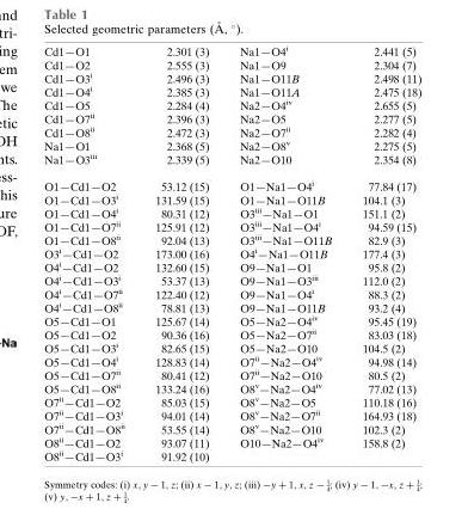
<table><tbody><tr><td>Cd1—O1</td><td>2.301 (3)</td><td>Na1—O4<sup>i</sup></td><td>2.441 (5)</td></tr><tr><td>Cd1—O2</td><td>2.555 (3)</td><td>Na1—O9</td><td>2.304 (7)</td></tr><tr><td>Cd1—O3<sup>i</sup></td><td>2.496 (3)</td><td>Na1—O11B</td><td>2.498 (11)</td></tr><tr><td>Cd1—O4<sup>i</sup></td><td>2.385 (3)</td><td>Na1—O11A</td><td>2.475 (18)</td></tr><tr><td>Cd1—O5</td><td>2.284 (4)</td><td>Na2—O4<sup>iv</sup></td><td>2.655 (5)</td></tr><tr><td>Cd1—O7<sup>ii</sup></td><td>2.396 (3)</td><td>Na2—O5</td><td>2.277 (5)</td></tr><tr><td>Cd1—O8<sup>ii</sup></td><td>2.472 (3)</td><td>Na2—O7<sup>ii</sup></td><td>2.282 (4)</td></tr><tr><td>Na1—O1</td><td>2.368 (5)</td><td>Na2—O8<sup>v</sup></td><td>2.275 (5)</td></tr><tr><td>Na1—O3<sup>iii</sup></td><td>2.339 (5)</td><td>Na2—O10</td><td>2.354 (8)</td></tr><tr><td>O1—Cd1—O2</td><td>53.12 (15)</td><td>O1—Na1—O4<sup>i</sup></td><td>77.84 (17)</td></tr><tr><td>O1—Cd1—O3<sup>i</sup></td><td>131.59 (15)</td><td>O1—Na1—O11B</td><td>104.1 (3)</td></tr><tr><td>O1—Cd1—O4<sup>i</sup></td><td>80.31 (12)</td><td>O3<sup>iii</sup>—Na1—O1</td><td>151.1 (2)</td></tr><tr><td>O1—Cd1—O7<sup>ii</sup></td><td>125.91 (12)</td><td>O3<sup>iii</sup>—Na1—O4<sup>i</sup></td><td>94.59 (15)</td></tr><tr><td>O1—Cd1—O8<sup>ii</sup></td><td>92.04 (13)</td><td>O3<sup>iii</sup>—Na1—O11B</td><td>82.9 (3)</td></tr><tr><td>O3<sup>i</sup>—Cd1—O2</td><td>173.00 (16)</td><td>O4<sup>i</sup>—Na1—O11B</td><td>177.4 (3)</td></tr><tr><td>O4<sup>i</sup>—Cd1—O2</td><td>132.60 (15)</td><td>O9—Na1—O1</td><td>95.8 (2)</td></tr><tr><td>O4<sup>i</sup>—Cd1—O3<sup>i</sup></td><td>53.37 (13)</td><td>O9—Na1—O3<sup>iii</sup></td><td>112.0 (2)</td></tr><tr><td>O4<sup>i</sup>—Cd1—O7<sup>ii</sup></td><td>122.40 (12)</td><td>O9—Na1—O4<sup>i</sup></td><td>88.3 (2)</td></tr><tr><td>O4<sup>i</sup>—Cd1—O8<sup>ii</sup></td><td>78.81 (13)</td><td>O9—Na1—O11B</td><td>93.2 (4)</td></tr><tr><td>O5—Cd1—O1</td><td>125.67 (14)</td><td>O5—Na2—O4<sup>iv</sup></td><td>95.45 (19)</td></tr><tr><td>O5—Cd1—O2</td><td>90.36 (16)</td><td>O5—Na2—O7<sup>ii</sup></td><td>83.03 (18)</td></tr><tr><td>O5—Cd1—O3<sup>i</sup></td><td>82.65 (15)</td><td>O5—Na2—O10</td><td>104.5 (2)</td></tr><tr><td>O5—Cd1—O4<sup>i</sup></td><td>128.83 (14)</td><td>O7<sup>ii</sup>—Na2—O4<sup>iv</sup></td><td>94.98 (14)</td></tr><tr><td>O5—Cd1—O7<sup>ii</sup></td><td>80.41 (12)</td><td>O7<sup>ii</sup>—Na2—O10</td><td>80.5 (2)</td></tr><tr><td>O5—Cd1—O8<sup>ii</sup></td><td>133.24 (16)</td><td>O8<sup>v</sup>—Na2—O4<sup>iv</sup></td><td>77.02 (13)</td></tr><tr><td>O7<sup>ii</sup>—Cd1—O2</td><td>85.03 (15)</td><td>O8<sup>v</sup>—Na2—O5</td><td>110.18 (16)</td></tr><tr><td>O7<sup>ii</sup>—Cd1—O3<sup>i</sup></td><td>94.01 (14)</td><td>O8<sup>v</sup>—Na2—O7<sup>ii</sup></td><td>164.93 (18)</td></tr><tr><td>O7<sup>ii</sup>—Cd1—O8<sup>ii</sup></td><td>53.55 (14)</td><td>O8<sup>v</sup>—Na2—O10</td><td>102.3 (2)</td></tr><tr><td>O8<sup>ii</sup>—Cd1—O2</td><td>93.07 (11)</td><td>O10—Na2—O4<sup>iv</sup></td><td>158.8 (2)</td></tr><tr><td>O8<sup>ii</sup>—Cd1—O3<sup>i</sup></td><td>91.92 (10)</td><td></td><td></td></tr></tbody></table>